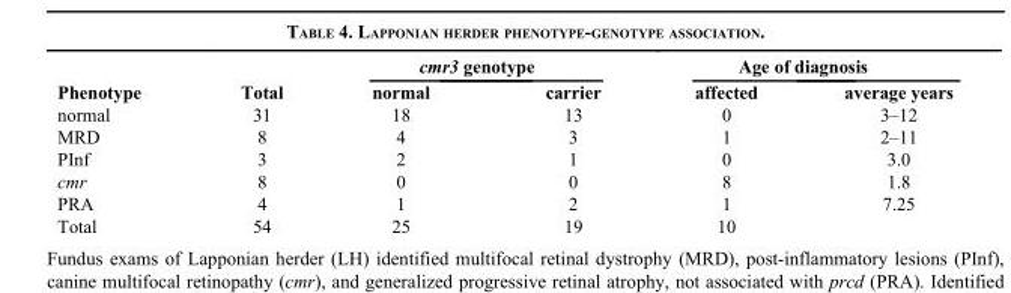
<table><thead><tr><td rowspan="2">Phenotype</td><td rowspan="2">Total</td><td colspan="2">cmr3 genotype</td><td colspan="2">Age of diagnosis</td></tr><tr><td>normal</td><td>carrier</td><td>affected</td><td>average years</td></tr></thead><tbody><tr><td>normal</td><td>31</td><td>18</td><td>13</td><td>0</td><td>3–12</td></tr><tr><td>MRD</td><td>8</td><td>4</td><td>3</td><td>1</td><td>2–11</td></tr><tr><td>PInf</td><td>3</td><td>2</td><td>1</td><td>0</td><td>3.0</td></tr><tr><td>cmr</td><td>8</td><td>0</td><td>0</td><td>8</td><td>1.8</td></tr><tr><td>PRA</td><td>4</td><td>1</td><td>2</td><td>1</td><td>7.25</td></tr><tr><td>Total</td><td>54</td><td>25</td><td>19</td><td>10</td><td></td></tr></tbody></table>